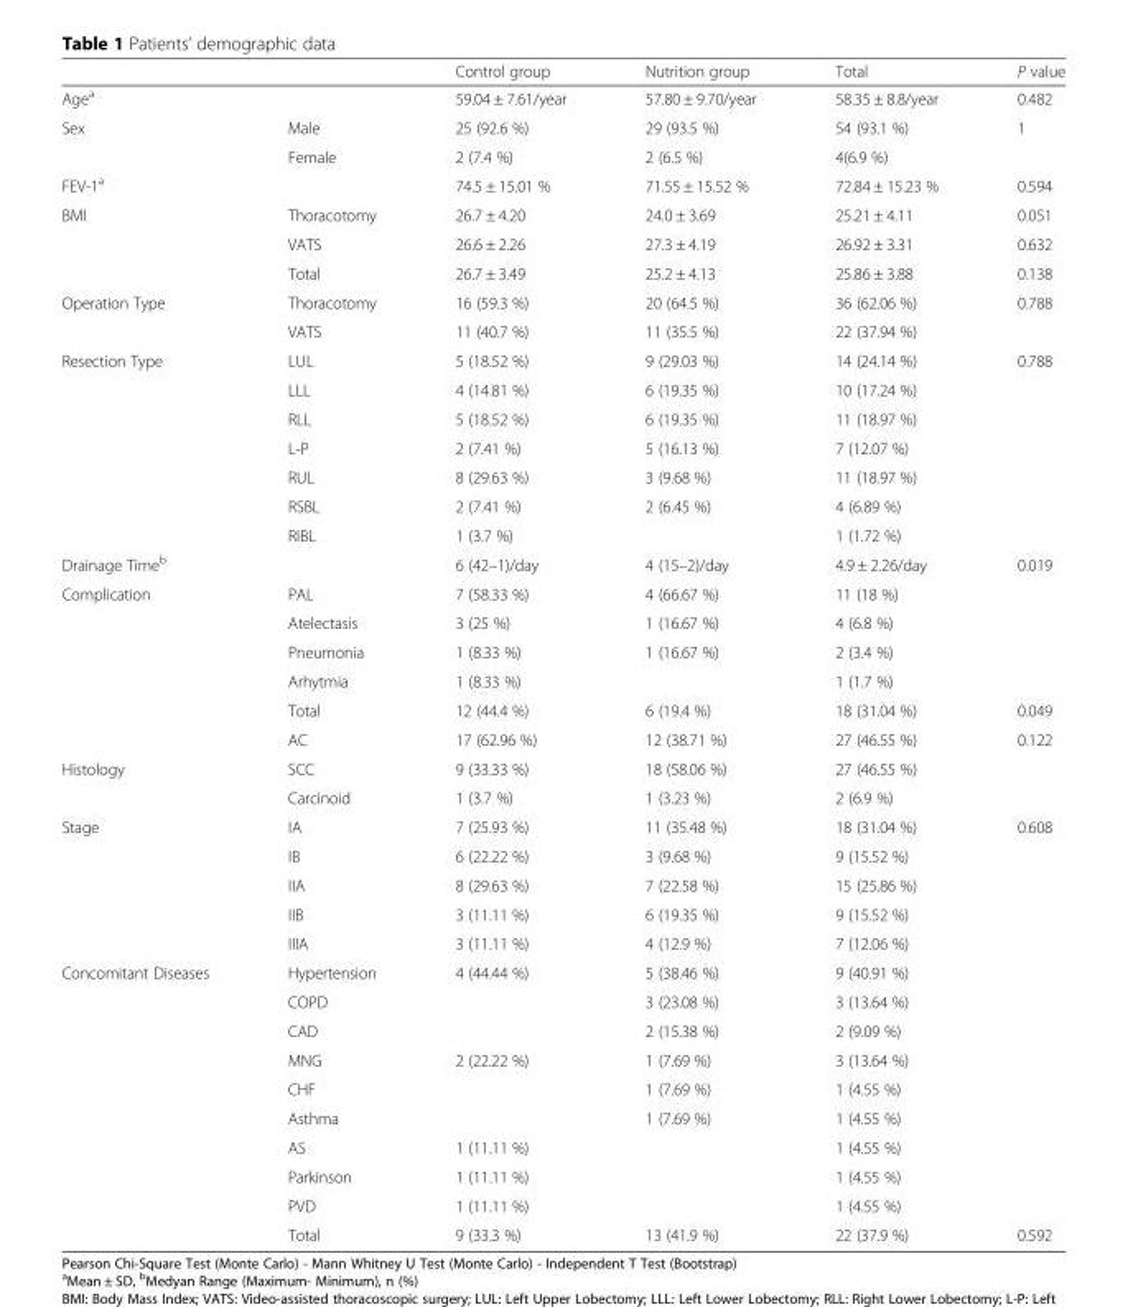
<table><thead><tr><td></td><td></td><td>Control group</td><td>Nutrition group</td><td>Total</td><td>P value</td></tr></thead><tbody><tr><td>Age<sup>a</sup></td><td></td><td>59.04 ± 7.61/year</td><td>57.80 ± 9.70/year</td><td>58.35 ± 8.8/year</td><td>0.482</td></tr><tr><td rowspan="2">Sex</td><td>Male</td><td>25 (92.6 %)</td><td>29 (93.5 %)</td><td>54 (93.1 %)</td><td>1</td></tr><tr><td>Female</td><td>2 (7.4 %)</td><td>2 (6.5 %)</td><td>4(6.9 %)</td><td></td></tr><tr><td>FEV-1<sup>a</sup></td><td></td><td>74.5 ± 15.01 %</td><td>71.55 ± 15.52 %</td><td>72.84 ± 15.23 %</td><td>0.594</td></tr><tr><td rowspan="3">BMI</td><td>Thoracotomy</td><td>26.7 ± 4.20</td><td>24.0 ± 3.69</td><td>25.21 ± 4.11</td><td>0.051</td></tr><tr><td>VATS</td><td>26.6 ± 2.26</td><td>27.3 ± 4.19</td><td>26.92 ± 3.31</td><td>0.632</td></tr><tr><td>Total</td><td>26.7 ± 3.49</td><td>25.2 ± 4.13</td><td>25.86 ± 3.88</td><td>0.138</td></tr><tr><td rowspan="2">Operation Type</td><td>Thoracotomy</td><td>16 (59.3 %)</td><td>20 (64.5 %)</td><td>36 (62.06 %)</td><td>0.788</td></tr><tr><td>VATS</td><td>11 (40.7 %)</td><td>11 (35.5 %)</td><td>22 (37.94 %)</td><td></td></tr><tr><td rowspan="7">Resection Type</td><td>LUL</td><td>5 (18.52 %)</td><td>9 (29.03 %)</td><td>14 (24.14 %)</td><td>0.788</td></tr><tr><td>LLL</td><td>4 (14.81 %)</td><td>6 (19.35 %)</td><td>10 (17.24 %)</td><td></td></tr><tr><td>RLL</td><td>5 (18.52 %)</td><td>6 (19.35 %)</td><td>11 (18.97 %)</td><td></td></tr><tr><td>L-P</td><td>2 (7.41 %)</td><td>5 (16.13 %)</td><td>7 (12.07 %)</td><td></td></tr><tr><td>RUL</td><td>8 (29.63 %)</td><td>3 (9.68 %)</td><td>11 (18.97 %)</td><td></td></tr><tr><td>RSBL</td><td>2 (7.41 %)</td><td>2 (6.45 %)</td><td>4 (6.89 %)</td><td></td></tr><tr><td>RIBL</td><td>1 (3.7 %)</td><td></td><td>1 (1.72 %)</td><td></td></tr><tr><td>Drainage Time<sup>b</sup></td><td></td><td>6 (42–1)/day</td><td>4 (15–2)/day</td><td>4.9 ± 2.26/day</td><td>0.019</td></tr><tr><td rowspan="6">Complication</td><td>PAL</td><td>7 (58.33 %)</td><td>4 (66.67 %)</td><td>11 (18 %)</td><td></td></tr><tr><td>Atelectasis</td><td>3 (25 %)</td><td>1 (16.67 %)</td><td>4 (6.8 %)</td><td></td></tr><tr><td>Pneumonia</td><td>1 (8.33 %)</td><td>1 (16.67 %)</td><td>2 (3.4 %)</td><td></td></tr><tr><td>Arhytmia</td><td>1 (8.33 %)</td><td></td><td>1 (1.7 %)</td><td></td></tr><tr><td>Total</td><td>12 (44.4 %)</td><td>6 (19.4 %)</td><td>18 (31.04 %)</td><td>0.049</td></tr><tr><td>AC</td><td>17 (62.96 %)</td><td>12 (38.71 %)</td><td>27 (46.55 %)</td><td>0.122</td></tr><tr><td rowspan="2">Histology</td><td>SCC</td><td>9 (33.33 %)</td><td>18 (58.06 %)</td><td>27 (46.55 %)</td><td></td></tr><tr><td>Carcinoid</td><td>1 (3.7 %)</td><td>1 (3.23 %)</td><td>2 (6.9 %)</td><td></td></tr><tr><td rowspan="5">Stage</td><td>IA</td><td>7 (25.93 %)</td><td>11 (35.48 %)</td><td>18 (31.04 %)</td><td>0.608</td></tr><tr><td>IB</td><td>6 (22.22 %)</td><td>3 (9.68 %)</td><td>9 (15.52 %)</td><td></td></tr><tr><td>IIA</td><td>8 (29.63 %)</td><td>7 (22.58 %)</td><td>15 (25.86 %)</td><td></td></tr><tr><td>IIB</td><td>3 (11.11 %)</td><td>6 (19.35 %)</td><td>9 (15.52 %)</td><td></td></tr><tr><td>IIIA</td><td>3 (11.11 %)</td><td>4 (12.9 %)</td><td>7 (12.06 %)</td><td></td></tr><tr><td rowspan="10">Concomitant Diseases</td><td>Hypertension</td><td>4 (44.44 %)</td><td>5 (38.46 %)</td><td>9 (40.91 %)</td><td></td></tr><tr><td>COPD</td><td></td><td>3 (23.08 %)</td><td>3 (13.64 %)</td><td></td></tr><tr><td>CAD</td><td></td><td>2 (15.38 %)</td><td>2 (9.09 %)</td><td></td></tr><tr><td>MNG</td><td>2 (22.22 %)</td><td>1 (7.69 %)</td><td>3 (13.64 %)</td><td></td></tr><tr><td>CHF</td><td></td><td>1 (7.69 %)</td><td>1 (4.55 %)</td><td></td></tr><tr><td>Asthma</td><td></td><td>1 (7.69 %)</td><td>1 (4.55 %)</td><td></td></tr><tr><td>AS</td><td>1 (11.11 %)</td><td></td><td>1 (4.55 %)</td><td></td></tr><tr><td>Parkinson</td><td>1 (11.11 %)</td><td></td><td>1 (4.55 %)</td><td></td></tr><tr><td>PVD</td><td>1 (11.11 %)</td><td></td><td>1 (4.55 %)</td><td></td></tr><tr><td>Total</td><td>9 (33.3 %)</td><td>13 (41.9 %)</td><td>22 (37.9 %)</td><td>0.592</td></tr></tbody></table>